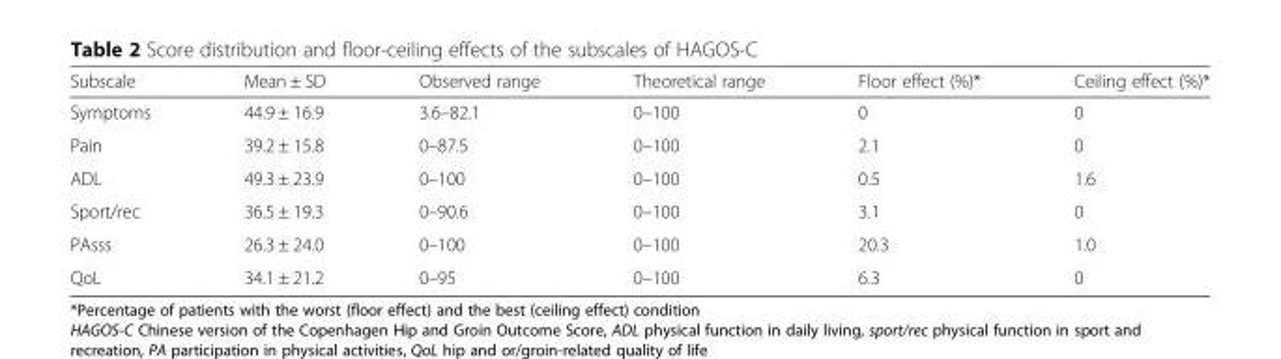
<table><thead><tr><td>Subscale</td><td>Mean ± SD</td><td>Observed range</td><td>Theoretical range</td><td>Floor effect (%)*</td><td>Ceiling effect (%)*</td></tr></thead><tbody><tr><td>Symptoms</td><td>44.9 ± 16.9</td><td>3.6–82.1</td><td>0–100</td><td>0</td><td>0</td></tr><tr><td>Pain</td><td>39.2 ± 15.8</td><td>0–87.5</td><td>0–100</td><td>2.1</td><td>0</td></tr><tr><td>ADL</td><td>49.3 ± 23.9</td><td>0–100</td><td>0–100</td><td>0.5</td><td>1.6</td></tr><tr><td>Sport/rec</td><td>36.5 ± 19.3</td><td>0–90.6</td><td>0–100</td><td>3.1</td><td>0</td></tr><tr><td>PAsss</td><td>26.3 ± 24.0</td><td>0–100</td><td>0–100</td><td>20.3</td><td>1.0</td></tr><tr><td>QoL</td><td>34.1 ± 21.2</td><td>0–95</td><td>0–100</td><td>6.3</td><td>0</td></tr></tbody></table>